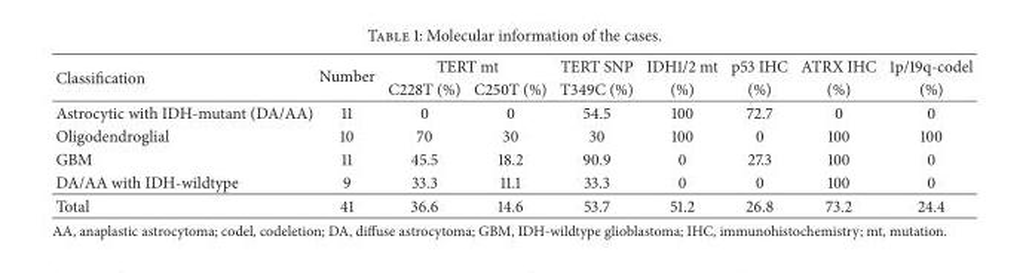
<table><thead><tr><td rowspan="2">Classification</td><td rowspan="2">Number</td><td colspan="2">TERT mt</td><td rowspan="2">TERT SNP T349C (%)</td><td rowspan="2">IDH1/2 mt (%)</td><td rowspan="2">p53 IHC (%)</td><td rowspan="2">ATRX IHC (%)</td><td rowspan="2">1p/19q-codel (%)</td></tr><tr><td>C228T (%)</td><td>C250T (%)</td></tr></thead><tbody><tr><td>Astrocytic with IDH-mutant (DA/AA)</td><td>11</td><td>0</td><td>0</td><td>54.5</td><td>100</td><td>72.7</td><td>0</td><td>0</td></tr><tr><td>Oligodendroglial</td><td>10</td><td>70</td><td>30</td><td>30</td><td>100</td><td>0</td><td>100</td><td>100</td></tr><tr><td>GBM</td><td>11</td><td>45.5</td><td>18.2</td><td>90.9</td><td>0</td><td>27.3</td><td>100</td><td>0</td></tr><tr><td>DA/AA with IDH-wildtype</td><td>9</td><td>33.3</td><td>11.1</td><td>33.3</td><td>0</td><td>0</td><td>100</td><td>0</td></tr><tr><td>Total</td><td>41</td><td>36.6</td><td>14.6</td><td>53.7</td><td>51.2</td><td>26.8</td><td>73.2</td><td>24.4</td></tr></tbody></table>